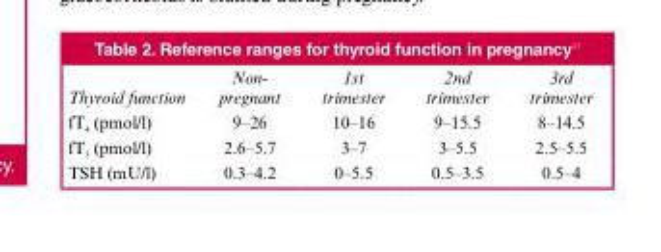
<table><thead><tr><td>Thyroid function</td><td>Non- pregnant</td><td>1st trimester</td><td>2nd trimester</td><td>3rd trimester</td></tr></thead><tbody><tr><td>fT<sub>4</sub> (pmol/l)</td><td>9–26</td><td>10–16</td><td>9–15.5</td><td>8–14.5</td></tr><tr><td>fT<sub>3</sub> (pmol/l)</td><td>2.6–5.7</td><td>3–7</td><td>3–5.5</td><td>2.5–5.5</td></tr><tr><td>TSH (mU/l)</td><td>0.3–4.2</td><td>0–5.5</td><td>0.5–3.5</td><td>0.5–4</td></tr></tbody></table>